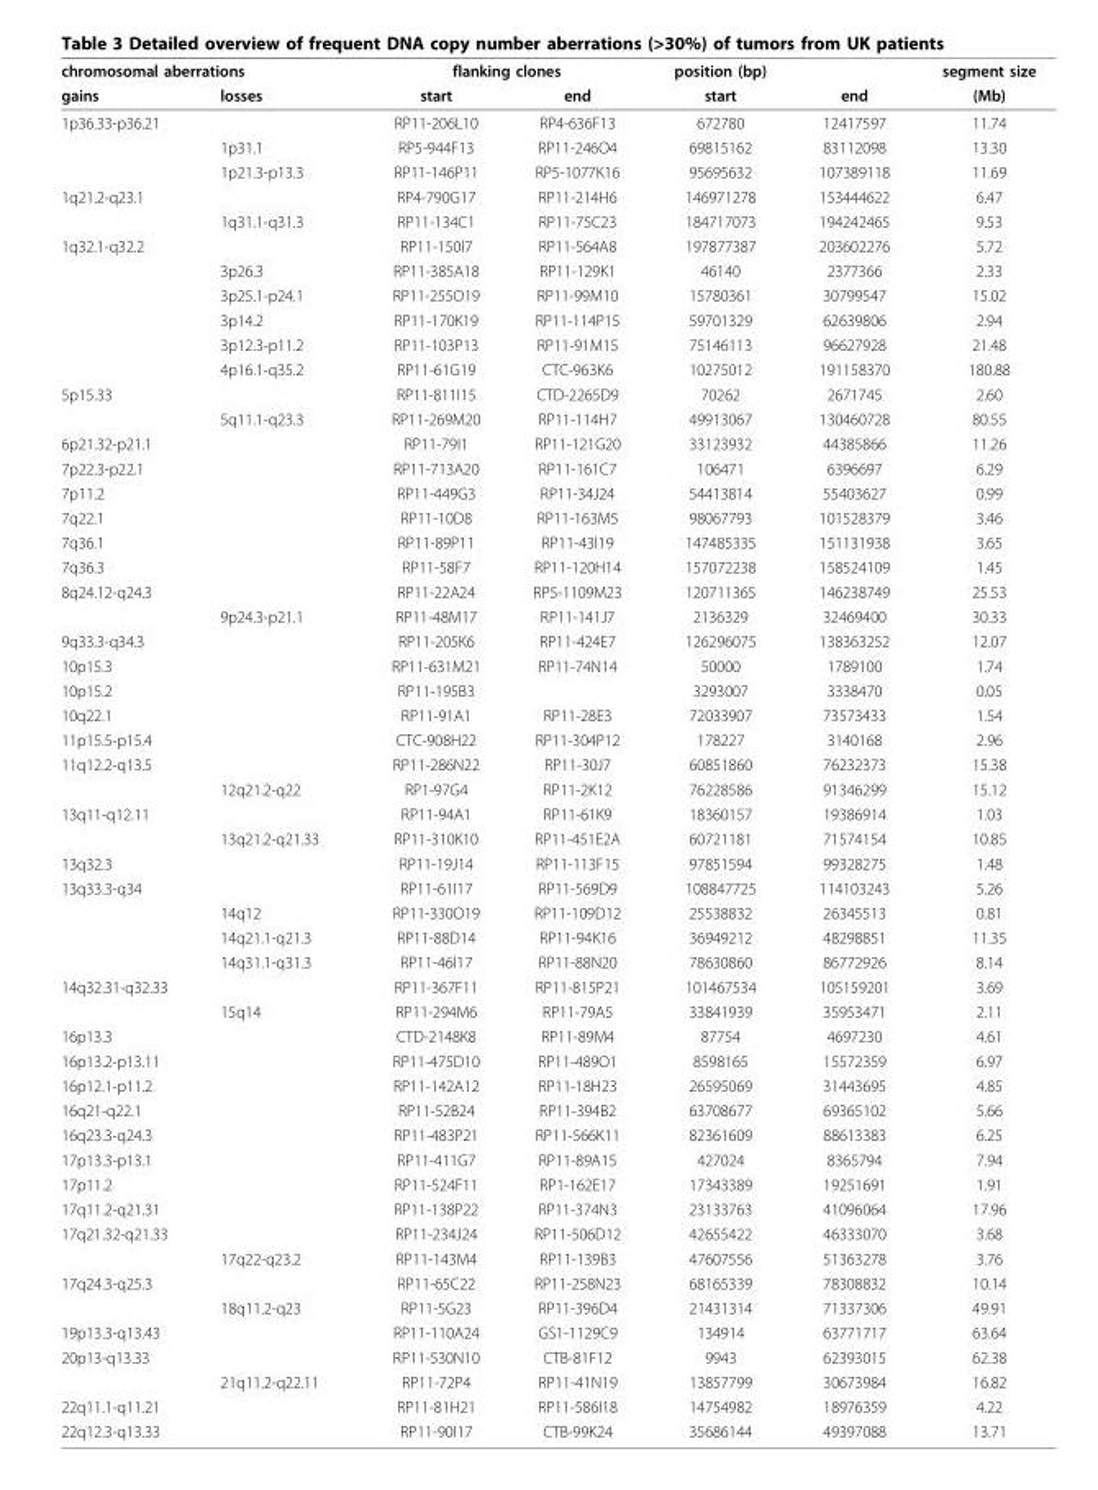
<table><thead><tr><td colspan="2">chromosomal aberrations</td><td colspan="2">flanking clones</td><td rowspan="2">position (bp) start</td><td rowspan="2">end</td><td rowspan="2">segment size (Mb)</td></tr><tr><td>gains</td><td>losses</td><td>start</td><td>end</td></tr></thead><tbody><tr><td rowspan="3">1p36.33-p36.21</td><td></td><td>RP11-206L10</td><td>RP4-636F13</td><td>672780</td><td>12417597</td><td>11.74</td></tr><tr><td>1p31.1</td><td>RP5-944F13</td><td>RP11-246O4</td><td>69815162</td><td>83112098</td><td>13.30</td></tr><tr><td>1p21.3-p13.3</td><td>RP11-146P11</td><td>RP5-1077K16</td><td>95695632</td><td>107389118</td><td>11.69</td></tr><tr><td rowspan="2">1q21.2-q23.1</td><td></td><td>RP4-790G17</td><td>RP11-214H6</td><td>146971278</td><td>153444622</td><td>6.47</td></tr><tr><td>1q31.1-q31.3</td><td>RP11-134C1</td><td>RP11-75C23</td><td>184717073</td><td>194242465</td><td>9.53</td></tr><tr><td rowspan="6">1q32.1-q32.2</td><td></td><td>RP11-150l7</td><td>RP11-564A8</td><td>197877387</td><td>203602276</td><td>5.72</td></tr><tr><td>3p26.3</td><td>RP11-385A18</td><td>RP11-129K1</td><td>46140</td><td>2377366</td><td>2.33</td></tr><tr><td>3p25.1-p24.1</td><td>RP11-255O19</td><td>RP11-99M10</td><td>15780361</td><td>30799547</td><td>15.02</td></tr><tr><td>3p14.2</td><td>RP11-170K19</td><td>RP11-114P15</td><td>59701329</td><td>62639806</td><td>2.94</td></tr><tr><td>3p12.3-p11.2</td><td>RP11-103P13</td><td>RP11-91M15</td><td>75146113</td><td>96627928</td><td>21.48</td></tr><tr><td>4p16.1-q35.2</td><td>RP11-61G19</td><td>CTC-963K6</td><td>10275012</td><td>191158370</td><td>180.88</td></tr><tr><td rowspan="2">5p15.33</td><td></td><td>RP11-811I15</td><td>CTD-2265D9</td><td>70262</td><td>2671745</td><td>2.60</td></tr><tr><td>5q11.1-q23.3</td><td>RP11-269M20</td><td>RP11-114H7</td><td>49913067</td><td>130460728</td><td>80.55</td></tr><tr><td>6p21.32-p21.1</td><td></td><td>RP11-79I1</td><td>RP11-121G20</td><td>33123932</td><td>44385866</td><td>11.26</td></tr><tr><td>7p22.3-p22.1</td><td></td><td>RP11-713A20</td><td>RP11-161C7</td><td>106471</td><td>6396697</td><td>6.29</td></tr><tr><td>7p11.2</td><td></td><td>RP11-449G3</td><td>RP11-34J24</td><td>54413814</td><td>55403627</td><td>0.99</td></tr><tr><td>7q22.1</td><td></td><td>RP11-10D8</td><td>RP11-163M5</td><td>98067793</td><td>101528379</td><td>3.46</td></tr><tr><td>7q36.1</td><td></td><td>RP11-89P11</td><td>RP11-43l19</td><td>147485335</td><td>151131938</td><td>3.65</td></tr><tr><td>7q36.3</td><td></td><td>RP11-58F7</td><td>RP11-120H14</td><td>157072238</td><td>158524109</td><td>1.45</td></tr><tr><td rowspan="2">8q24.12-q24.3</td><td></td><td>RP11-22A24</td><td>RP5-1109M23</td><td>120711365</td><td>146238749</td><td>25.53</td></tr><tr><td>9p24.3-p21.1</td><td>RP11-48M17</td><td>RP11-141J7</td><td>2136329</td><td>32469400</td><td>30.33</td></tr><tr><td>9q33.3-q34.3</td><td></td><td>RP11-205K6</td><td>RP11-424E7</td><td>126296075</td><td>138363252</td><td>12.07</td></tr><tr><td>10p15.3</td><td></td><td>RP11-631M21</td><td>RP11-74N14</td><td>50000</td><td>1789100</td><td>1.74</td></tr><tr><td>10p15.2</td><td></td><td>RP11-195B3</td><td></td><td>3293007</td><td>3338470</td><td>0.05</td></tr><tr><td>10q22.1</td><td></td><td>RP11-91A1</td><td>RP11-28E3</td><td>72033907</td><td>73573433</td><td>1.54</td></tr><tr><td>11p15.5-p15.4</td><td></td><td>CTC-908H22</td><td>RP11-304P12</td><td>178227</td><td>3140168</td><td>2.96</td></tr><tr><td rowspan="2">11q12.2-q13.5</td><td></td><td>RP11-286N22</td><td>RP11-30J7</td><td>60851860</td><td>76232373</td><td>15.38</td></tr><tr><td>12q21.2-q22</td><td>RP1-97G4</td><td>RP11-2K12</td><td>76228586</td><td>91346299</td><td>15.12</td></tr><tr><td rowspan="2">13q11-q12.11</td><td></td><td>RP11-94A1</td><td>RP11-61K9</td><td>18360157</td><td>19386914</td><td>1.03</td></tr><tr><td>13q21.2-q21.33</td><td>RP11-310K10</td><td>RP11-451E2A</td><td>60721181</td><td>71574154</td><td>10.85</td></tr><tr><td>13q32.3</td><td></td><td>RP11-19J14</td><td>RP11-113F15</td><td>97851594</td><td>99328275</td><td>1.48</td></tr><tr><td rowspan="4">13q33.3-q34</td><td></td><td>RP11-61I17</td><td>RP11-569D9</td><td>108847725</td><td>114103243</td><td>5.26</td></tr><tr><td>14q12</td><td>RP11-330O19</td><td>RP11-109D12</td><td>25538832</td><td>26345513</td><td>0.81</td></tr><tr><td>14q21.1-q21.3</td><td>RP11-88D14</td><td>RP11-94K16</td><td>36949212</td><td>48298851</td><td>11.35</td></tr><tr><td>14q31.1-q31.3</td><td>RP11-46l17</td><td>RP11-88N20</td><td>78630860</td><td>86772926</td><td>8.14</td></tr><tr><td rowspan="2">14q32.31-q32.33</td><td></td><td>RP11-367F11</td><td>RP11-815P21</td><td>101467534</td><td>105159201</td><td>3.69</td></tr><tr><td>15q14</td><td>RP11-294M6</td><td>RP11-79A5</td><td>33841939</td><td>35953471</td><td>2.11</td></tr><tr><td>16p13.3</td><td></td><td>CTD-2148K8</td><td>RP11-89M4</td><td>87754</td><td>4697230</td><td>4.61</td></tr><tr><td>16p13.2-p13.11</td><td></td><td>RP11-475D10</td><td>RP11-489O1</td><td>8598165</td><td>15572359</td><td>6.97</td></tr><tr><td>16p12.1-p11.2</td><td></td><td>RP11-142A12</td><td>RP11-18H23</td><td>26595069</td><td>31443695</td><td>4.85</td></tr><tr><td>16q21-q22.1</td><td></td><td>RP11-52B24</td><td>RP11-394B2</td><td>63708677</td><td>69365102</td><td>5.66</td></tr><tr><td>16q23.3-q24.3</td><td></td><td>RP11-483P21</td><td>RP11-566K11</td><td>82361609</td><td>88613383</td><td>6.25</td></tr><tr><td>17p13.3-p13.1</td><td></td><td>RP11-411G7</td><td>RP11-89A15</td><td>427024</td><td>8365794</td><td>7.94</td></tr><tr><td>17p11.2</td><td></td><td>RP11-524F11</td><td>RP1-162E17</td><td>17343389</td><td>19251691</td><td>1.91</td></tr><tr><td>17q11.2-q21.31</td><td></td><td>RP11-138P22</td><td>RP11-374N3</td><td>23133763</td><td>41096064</td><td>17.96</td></tr><tr><td rowspan="2">17q21.32-q21.33</td><td></td><td>RP11-234J24</td><td>RP11-506D12</td><td>42655422</td><td>46333070</td><td>3.68</td></tr><tr><td>17q22-q23.2</td><td>RP11-143M4</td><td>RP11-139B3</td><td>47607556</td><td>51363278</td><td>3.76</td></tr><tr><td rowspan="2">17q24.3-q25.3</td><td></td><td>RP11-65C22</td><td>RP11-258N23</td><td>68165339</td><td>78308832</td><td>10.14</td></tr><tr><td>18q11.2-q23</td><td>RP11-5G23</td><td>RP11-396D4</td><td>21431314</td><td>71337306</td><td>49.91</td></tr><tr><td>19p13.3-q13.43</td><td></td><td>RP11-110A24</td><td>GS1-1129C9</td><td>134914</td><td>63771717</td><td>63.64</td></tr><tr><td rowspan="2">20p13-q13.33</td><td></td><td>RP11-530N10</td><td>CTB-81F12</td><td>9943</td><td>62393015</td><td>62.38</td></tr><tr><td>21q11.2-q22.11</td><td>RP11-72P4</td><td>RP11-41N19</td><td>13857799</td><td>30673984</td><td>16.82</td></tr><tr><td>22q11.1-q11.21</td><td></td><td>RP11-81H21</td><td>RP11-586I18</td><td>14754982</td><td>18976359</td><td>4.22</td></tr><tr><td>22q12.3-q13.33</td><td></td><td>RP11-90I17</td><td>CTB-99K24</td><td>35686144</td><td>49397088</td><td>13.71</td></tr></tbody></table>